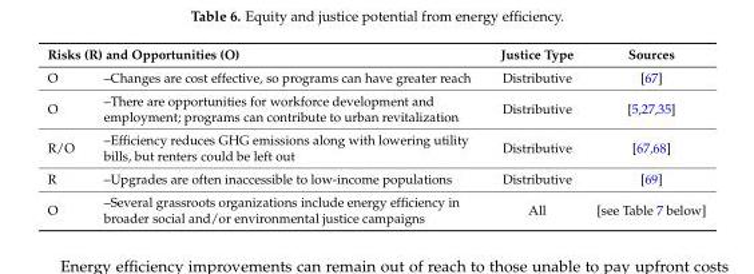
<table><thead><tr><td colspan="2">Risks (R) and Opportunities (O)</td><td rowspan="2">Justice Type Distributive</td><td rowspan="2">Sources [67]</td></tr><tr><td>O</td><td>–Changes are cost effective, so programs can have greater reach</td></tr></thead><tbody><tr><td>O</td><td>–There are opportunities for workforce development and employment; programs can contribute to urban revitalization</td><td>Distributive</td><td>[5,27,35]</td></tr><tr><td>R/O</td><td>–Efficiency reduces GHG emissions along with lowering utility bills, but renters could be left out</td><td>Distributive</td><td>[67,68]</td></tr><tr><td>R</td><td>–Upgrades are often inaccessible to low-income populations</td><td>Distributive</td><td>[69]</td></tr><tr><td>O</td><td>–Several grassroots organizations include energy efficiency in broader social and/or environmental justice campaigns</td><td>All</td><td>[see Table 7 below]</td></tr></tbody></table>